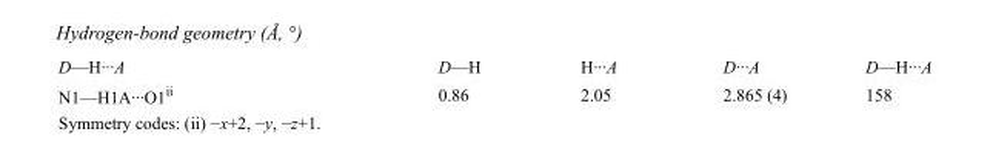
<table><tbody><tr><td>D—H···A</td><td>D—H</td><td>H···A</td><td>D···A</td><td>D—H···A</td></tr><tr><td>N1—H1A···O1<sup>ii</sup></td><td>0.86</td><td>2.05</td><td>2.865 (4)</td><td>158</td></tr></tbody></table>